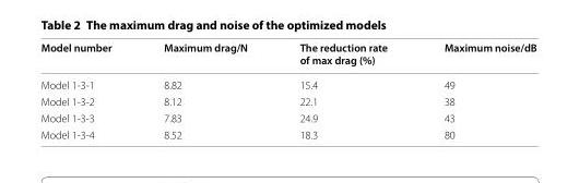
<table><thead><tr><td>Model number</td><td>Maximum drag/N</td><td>The reduction rate of max drag (%)</td><td>Maximum noise/dB</td></tr></thead><tbody><tr><td>Model 1-3-1</td><td>8.82</td><td>15.4</td><td>49</td></tr><tr><td>Model 1-3-2</td><td>8.12</td><td>22.1</td><td>38</td></tr><tr><td>Model 1-3-3</td><td>7.83</td><td>24.9</td><td>43</td></tr><tr><td>Model 1-3-4</td><td>8.52</td><td>18.3</td><td>80</td></tr></tbody></table>